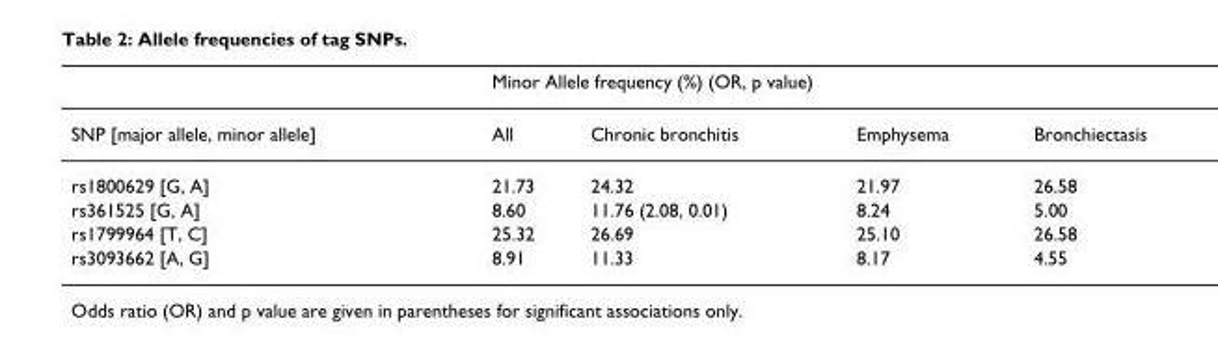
<table><thead><tr><td rowspan="2">SNP [major allele, minor allele]</td><td colspan="4">Minor Allele frequency (%) (OR, p value)</td></tr><tr><td>All</td><td>Chronic bronchitis</td><td>Emphysema</td><td>Bronchiectasis</td></tr></thead><tbody><tr><td>rs1800629 [G, A]</td><td>21.73</td><td>24.32</td><td>21.97</td><td>26.58</td></tr><tr><td>rs361525 [G, A]</td><td>8.60</td><td>11.76 (2.08, 0.01)</td><td>8.24</td><td>5.00</td></tr><tr><td>rs1799964 [T, C]</td><td>25.32</td><td>26.69</td><td>25.10</td><td>26.58</td></tr><tr><td>rs3093662 [A, G]</td><td>8.91</td><td>11.33</td><td>8.17</td><td>4.55</td></tr></tbody></table>